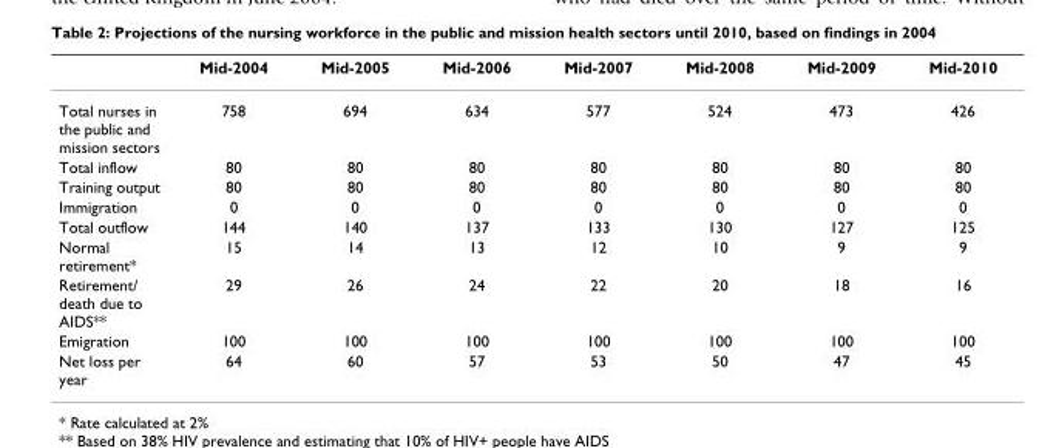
<table><thead><tr><td></td><td>Mid-2004</td><td>Mid-2005</td><td>Mid-2006</td><td>Mid-2007</td><td>Mid-2008</td><td>Mid-2009</td><td>Mid-2010</td></tr></thead><tbody><tr><td>Total nurses in the public and mission sectors</td><td>758</td><td>694</td><td>634</td><td>577</td><td>524</td><td>473</td><td>426</td></tr><tr><td>Total inflow</td><td>80</td><td>80</td><td>80</td><td>80</td><td>80</td><td>80</td><td>80</td></tr><tr><td>Training output</td><td>80</td><td>80</td><td>80</td><td>80</td><td>80</td><td>80</td><td>80</td></tr><tr><td>Immigration</td><td>0</td><td>0</td><td>0</td><td>0</td><td>0</td><td>0</td><td>0</td></tr><tr><td>Total outflow</td><td>144</td><td>140</td><td>137</td><td>133</td><td>130</td><td>127</td><td>125</td></tr><tr><td>Normal retirement*</td><td>15</td><td>14</td><td>13</td><td>12</td><td>10</td><td>9</td><td>9</td></tr><tr><td>Retirement/ death due to AIDS**</td><td>29</td><td>26</td><td>24</td><td>22</td><td>20</td><td>18</td><td>16</td></tr><tr><td>Emigration</td><td>100</td><td>100</td><td>100</td><td>100</td><td>100</td><td>100</td><td>100</td></tr><tr><td>Net loss per year</td><td>64</td><td>60</td><td>57</td><td>53</td><td>50</td><td>47</td><td>45</td></tr></tbody></table>